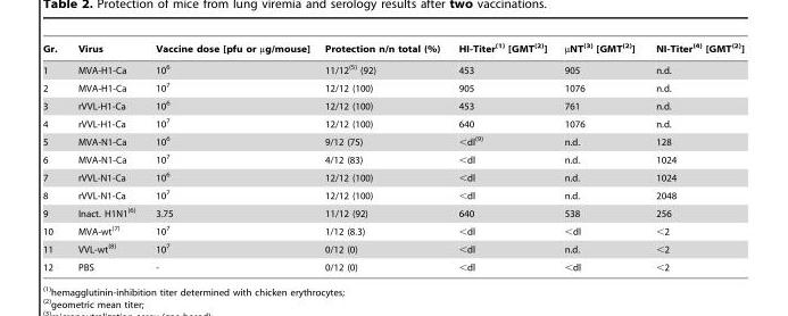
<table><thead><tr><td>Gr.</td><td>Virus</td><td>Vaccine dose [pfu or µg/mouse]</td><td>Protection n/n total (%)</td><td>HI-Titer(1) [GMT(2)]</td><td>µNT(3) [GMT(2)]</td><td>NI-Titer(4) [GMT(2)]</td></tr></thead><tbody><tr><td>1</td><td>MVA-H1-Ca</td><td>10<sup>6</sup></td><td>11/12(5) (92)</td><td>453</td><td>905</td><td>n.d.</td></tr><tr><td>2</td><td>MVA-H1-Ca</td><td>10<sup>7</sup></td><td>12/12 (100)</td><td>905</td><td>1076</td><td>n.d.</td></tr><tr><td>3</td><td>rVVL-H1-Ca</td><td>10<sup>6</sup></td><td>12/12 (100)</td><td>453</td><td>761</td><td>n.d.</td></tr><tr><td>4</td><td>rVVL-H1-Ca</td><td>10<sup>7</sup></td><td>12/12 (100)</td><td>640</td><td>1076</td><td>n.d.</td></tr><tr><td>5</td><td>MVA-N1-Ca</td><td>10<sup>6</sup></td><td>9/12 (75)</td><td>&lt;dl(9)</td><td>n.d.</td><td>128</td></tr><tr><td>6</td><td>MVA-N1-Ca</td><td>10<sup>7</sup></td><td>4/12 (83)</td><td>&lt;dl</td><td>n.d.</td><td>1024</td></tr><tr><td>7</td><td>rVVL-N1-Ca</td><td>10<sup>6</sup></td><td>12/12 (100)</td><td>&lt;dl</td><td>n.d.</td><td>1024</td></tr><tr><td>8</td><td>rVVL-N1-Ca</td><td>10<sup>7</sup></td><td>12/12 (100)</td><td>&lt;dl</td><td>n.d.</td><td>2048</td></tr><tr><td>9</td><td>Inact. H1N1(6)</td><td>3.75</td><td>11/12 (92)</td><td>640</td><td>538</td><td>256</td></tr><tr><td>10</td><td>MVA-wt(7)</td><td>10<sup>7</sup></td><td>1/12 (8.3)</td><td>&lt;dl</td><td>&lt;dl</td><td>&lt;2</td></tr><tr><td>11</td><td>VVL-wt(8)</td><td>10<sup>7</sup></td><td>0/12 (0)</td><td>&lt;dl</td><td>n.d.</td><td>&lt;2</td></tr><tr><td>12</td><td>PBS</td><td>-</td><td>0/12 (0)</td><td>&lt;dl</td><td>&lt;dl</td><td>&lt;2</td></tr></tbody></table>